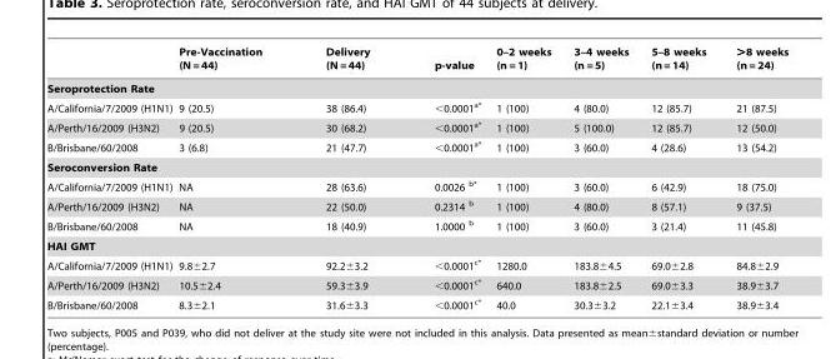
<table><thead><tr><td></td><td>Pre-Vaccination (N = 44)</td><td>Delivery (N = 44)</td><td>p-value</td><td>0–2 weeks (n = 1)</td><td>3–4 weeks (n = 5)</td><td>5–8 weeks (n = 14)</td><td>&gt;8 weeks (n = 24)</td></tr></thead><tbody><tr><td colspan="8">Seroprotection Rate</td></tr><tr><td>A/California/7/2009 (H1N1)</td><td>9 (20.5)</td><td>38 (86.4)</td><td>&lt;0.0001<sup>a</sup>*</td><td>1 (100)</td><td>4 (80.0)</td><td>12 (85.7)</td><td>21 (87.5)</td></tr><tr><td>A/Perth/16/2009 (H3N2)</td><td>9 (20.5)</td><td>30 (68.2)</td><td>&lt;0.0001<sup>a</sup>*</td><td>1 (100)</td><td>5 (100.0)</td><td>12 (85.7)</td><td>12 (50.0)</td></tr><tr><td>B/Brisbane/60/2008</td><td>3 (6.8)</td><td>21 (47.7)</td><td>&lt;0.0001<sup>a</sup>*</td><td>1 (100)</td><td>3 (60.0)</td><td>4 (28.6)</td><td>13 (54.2)</td></tr><tr><td colspan="8">Seroconversion Rate</td></tr><tr><td>A/California/7/2009 (H1N1)</td><td>NA</td><td>28 (63.6)</td><td>0.0026 <sup>b</sup>*</td><td>1 (100)</td><td>3 (60.0)</td><td>6 (42.9)</td><td>18 (75.0)</td></tr><tr><td>A/Perth/16/2009 (H3N2)</td><td>NA</td><td>22 (50.0)</td><td>0.2314 <sup>b</sup></td><td>1 (100)</td><td>4 (80.0)</td><td>8 (57.1)</td><td>9 (37.5)</td></tr><tr><td>B/Brisbane/60/2008</td><td>NA</td><td>18 (40.9)</td><td>1.0000 <sup>b</sup></td><td>1 (100)</td><td>3 (60.0)</td><td>3 (21.4)</td><td>11 (45.8)</td></tr><tr><td colspan="8">HAI GMT</td></tr><tr><td>A/California/7/2009 (H1N1)</td><td>9.8±2.7</td><td>92.2±3.2</td><td>&lt;0.0001<sup>c</sup>*</td><td>1280.0</td><td>183.8±4.5</td><td>69.0±2.8</td><td>84.8±2.9</td></tr><tr><td>A/Perth/16/2009 (H3N2)</td><td>10.5±2.4</td><td>59.3±3.9</td><td>&lt;0.0001<sup>c</sup>*</td><td>640.0</td><td>183.8±2.5</td><td>69.0±3.3</td><td>38.9±3.7</td></tr><tr><td>B/Brisbane/60/2008</td><td>8.3±2.1</td><td>31.6±3.3</td><td>&lt;0.0001<sup>c</sup>*</td><td>40.0</td><td>30.3±3.2</td><td>22.1±3.4</td><td>38.9±3.4</td></tr></tbody></table>